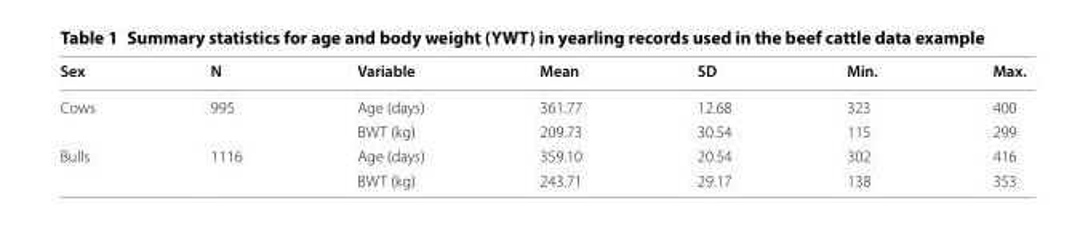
<table><thead><tr><td>Sex</td><td>N</td><td>Variable</td><td>Mean</td><td>SD</td><td>Min.</td><td>Max.</td></tr></thead><tbody><tr><td rowspan="2">Cows</td><td rowspan="2">995</td><td>Age (days)</td><td>361.77</td><td>12.68</td><td>323</td><td>400</td></tr><tr><td>BWT (kg)</td><td>209.73</td><td>30.54</td><td>115</td><td>299</td></tr><tr><td rowspan="2">Bulls</td><td rowspan="2">1116</td><td>Age (days)</td><td>359.10</td><td>20.54</td><td>302</td><td>416</td></tr><tr><td>BWT (kg)</td><td>243.71</td><td>29.17</td><td>138</td><td>353</td></tr></tbody></table>